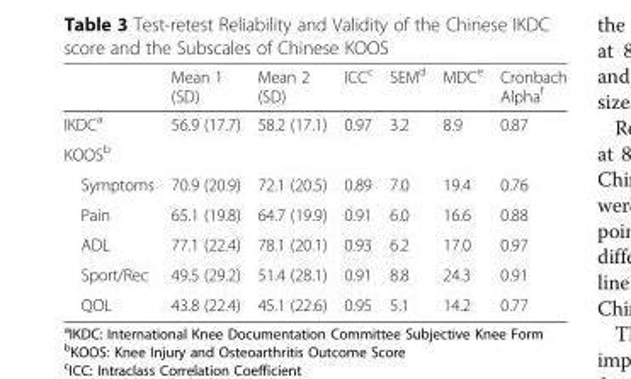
<table><thead><tr><td></td><td>Mean 1 (SD)</td><td>Mean 2 (SD)</td><td>ICC<sup>c</sup></td><td>SEM<sup>d</sup></td><td>MDC<sup>e</sup></td><td>Cronbach Alpha<sup>f</sup></td></tr></thead><tbody><tr><td>IKDC<sup>a</sup></td><td>56.9 (17.7)</td><td>58.2 (17.1)</td><td>0.97</td><td>3.2</td><td>8.9</td><td>0.87</td></tr><tr><td colspan="7">KOOS<sup>b</sup></td></tr><tr><td>Symptoms</td><td>70.9 (20.9)</td><td>72.1 (20.5)</td><td>0.89</td><td>7.0</td><td>19.4</td><td>0.76</td></tr><tr><td>Pain</td><td>65.1 (19.8)</td><td>64.7 (19.9)</td><td>0.91</td><td>6.0</td><td>16.6</td><td>0.88</td></tr><tr><td>ADL</td><td>77.1 (22.4)</td><td>78.1 (20.1)</td><td>0.93</td><td>6.2</td><td>17.0</td><td>0.97</td></tr><tr><td>Sport/Rec</td><td>49.5 (29.2)</td><td>51.4 (28.1)</td><td>0.91</td><td>8.8</td><td>24.3</td><td>0.91</td></tr><tr><td>QOL</td><td>43.8 (22.4)</td><td>45.1 (22.6)</td><td>0.95</td><td>5.1</td><td>14.2</td><td>0.77</td></tr></tbody></table>